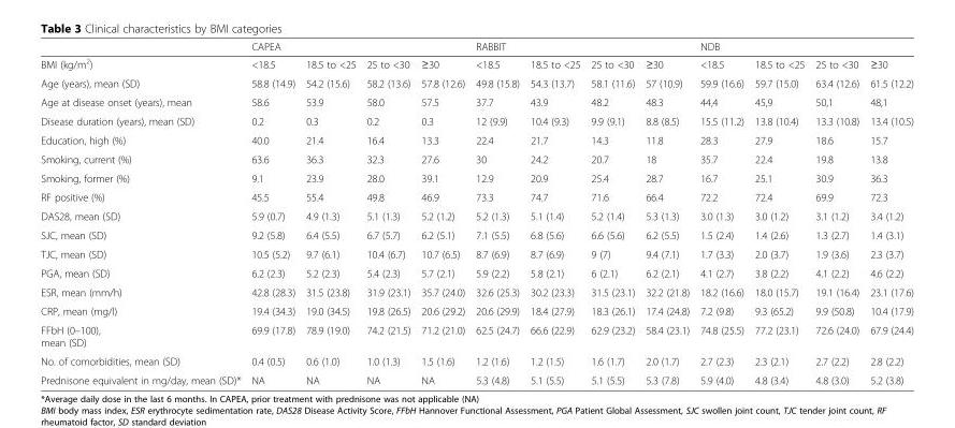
<table><thead><tr><td rowspan="2">BMI (kg/m<sup>2</sup>)</td><td colspan="4">CAPEA</td><td colspan="4">RABBIT</td><td colspan="4">NDB</td></tr><tr><td>&lt;18.5</td><td>18.5 to &lt;25</td><td>25 to &lt;30</td><td>≥30</td><td>&lt;18.5</td><td>18.5 to &lt;25</td><td>25 to &lt;30</td><td>≥30</td><td>&lt;18.5</td><td>18.5 to &lt;25</td><td>25 to &lt;30</td><td>≥30</td></tr></thead><tbody><tr><td>Age (years), mean (SD)</td><td>58.8 (14.9)</td><td>54.2 (15.6)</td><td>58.2 (13.6)</td><td>57.8 (12.6)</td><td>49.8 (15.8)</td><td>54.3 (13.7)</td><td>58.1 (11.6)</td><td>57 (10.9)</td><td>59.9 (16.6)</td><td>59.7 (15.0)</td><td>63.4 (12.6)</td><td>61.5 (12.2)</td></tr><tr><td>Age at disease onset (years), mean</td><td>58.6</td><td>53.9</td><td>58.0</td><td>57.5</td><td>37.7</td><td>43.9</td><td>48.2</td><td>48.3</td><td>44,4</td><td>45,9</td><td>50,1</td><td>48,1</td></tr><tr><td>Disease duration (years), mean (SD)</td><td>0.2</td><td>0.3</td><td>0.2</td><td>0.3</td><td>12 (9.9)</td><td>10.4 (9.3)</td><td>9.9 (9.1)</td><td>8.8 (8.5)</td><td>15.5 (11.2)</td><td>13.8 (10.4)</td><td>13.3 (10.8)</td><td>13.4 (10.5)</td></tr><tr><td>Education, high (%)</td><td>40.0</td><td>21.4</td><td>16.4</td><td>13.3</td><td>22.4</td><td>21.7</td><td>14.3</td><td>11.8</td><td>28.3</td><td>27.9</td><td>18.6</td><td>15.7</td></tr><tr><td>Smoking, current (%)</td><td>63.6</td><td>36.3</td><td>32.3</td><td>27.6</td><td>30</td><td>24.2</td><td>20.7</td><td>18</td><td>35.7</td><td>22.4</td><td>19.8</td><td>13.8</td></tr><tr><td>Smoking, former (%)</td><td>9.1</td><td>23.9</td><td>28.0</td><td>39.1</td><td>12.9</td><td>20.9</td><td>25.4</td><td>28.7</td><td>16.7</td><td>25.1</td><td>30.9</td><td>36.3</td></tr><tr><td>RF positive (%)</td><td>45.5</td><td>55.4</td><td>49.8</td><td>46.9</td><td>73.3</td><td>74.7</td><td>71.6</td><td>66.4</td><td>72.2</td><td>72.4</td><td>69.9</td><td>72.3</td></tr><tr><td>DAS28, mean (SD)</td><td>5.9 (0.7)</td><td>4.9 (1.3)</td><td>5.1 (1.3)</td><td>5.2 (1.2)</td><td>5.2 (1.3)</td><td>5.1 (1.4)</td><td>5.2 (1.4)</td><td>5.3 (1.3)</td><td>3.0 (1.3)</td><td>3.0 (1.2)</td><td>3.1 (1.2)</td><td>3.4 (1.2)</td></tr><tr><td>SJC, mean (SD)</td><td>9.2 (5.8)</td><td>6.4 (5.5)</td><td>6.7 (5.7)</td><td>6.2 (5.1)</td><td>7.1 (5.5)</td><td>6.8 (5.6)</td><td>6.6 (5.6)</td><td>6.2 (5.5)</td><td>1.5 (2.4)</td><td>1.4 (2.6)</td><td>1.3 (2.7)</td><td>1.4 (3.1)</td></tr><tr><td>TJC, mean (SD)</td><td>10.5 (5.2)</td><td>9.7 (6.1)</td><td>10.4 (6.7)</td><td>10.7 (6.5)</td><td>8.7 (6.9)</td><td>8.7 (6.9)</td><td>9 (7)</td><td>9.4 (7.1)</td><td>1.7 (3.3)</td><td>2.0 (3.7)</td><td>1.9 (3.6)</td><td>2.3 (3.7)</td></tr><tr><td>PGA, mean (SD)</td><td>6.2 (2.3)</td><td>5.2 (2.3)</td><td>5.4 (2.3)</td><td>5.7 (2.1)</td><td>5.9 (2.2)</td><td>5.8 (2.1)</td><td>6 (2.1)</td><td>6.2 (2.1)</td><td>4.1 (2.7)</td><td>3.8 (2.2)</td><td>4.1 (2.2)</td><td>4.6 (2.2)</td></tr><tr><td>ESR, mean (mm/h)</td><td>42.8 (28.3)</td><td>31.5 (23.8)</td><td>31.9 (23.1)</td><td>35.7 (24.0)</td><td>32.6 (25.3)</td><td>30.2 (23.3)</td><td>31.5 (23.1)</td><td>32.2 (21.8)</td><td>18.2 (16.6)</td><td>18.0 (15.7)</td><td>19.1 (16.4)</td><td>23.1 (17.6)</td></tr><tr><td>CRP, mean (mg/l)</td><td>19.4 (34.3)</td><td>19.0 (34.5)</td><td>19.8 (26.5)</td><td>20.6 (29.2)</td><td>20.6 (29.9)</td><td>18.4 (27.9)</td><td>18.3 (26.1)</td><td>17.4 (24.8)</td><td>7.2 (9.8)</td><td>9.3 (65.2)</td><td>9.9 (50.8)</td><td>10.4 (17.9)</td></tr><tr><td>FFbH (0–100), mean (SD)</td><td>69.9 (17.8)</td><td>78.9 (19.0)</td><td>74.2 (21.5)</td><td>71.2 (21.0)</td><td>62.5 (24.7)</td><td>66.6 (22.9)</td><td>62.9 (23.2)</td><td>58.4 (23.1)</td><td>74.8 (25.5)</td><td>77.2 (23.1)</td><td>72.6 (24.0)</td><td>67.9 (24.4)</td></tr><tr><td>No. of comorbidities, mean (SD)</td><td>0.4 (0.5)</td><td>0.6 (1.0)</td><td>1.0 (1.3)</td><td>1.5 (1.6)</td><td>1.2 (1.6)</td><td>1.2 (1.5)</td><td>1.6 (1.7)</td><td>2.0 (1.7)</td><td>2.7 (2.3)</td><td>2.3 (2.1)</td><td>2.7 (2.2)</td><td>2.8 (2.2)</td></tr><tr><td>Prednisone equivalent in mg/day, mean (SD)*</td><td>NA</td><td>NA</td><td>NA</td><td>NA</td><td>5.3 (4.8)</td><td>5.1 (5.5)</td><td>5.1 (5.5)</td><td>5.3 (7.8)</td><td>5.9 (4.0)</td><td>4.8 (3.4)</td><td>4.8 (3.0)</td><td>5.2 (3.8)</td></tr></tbody></table>